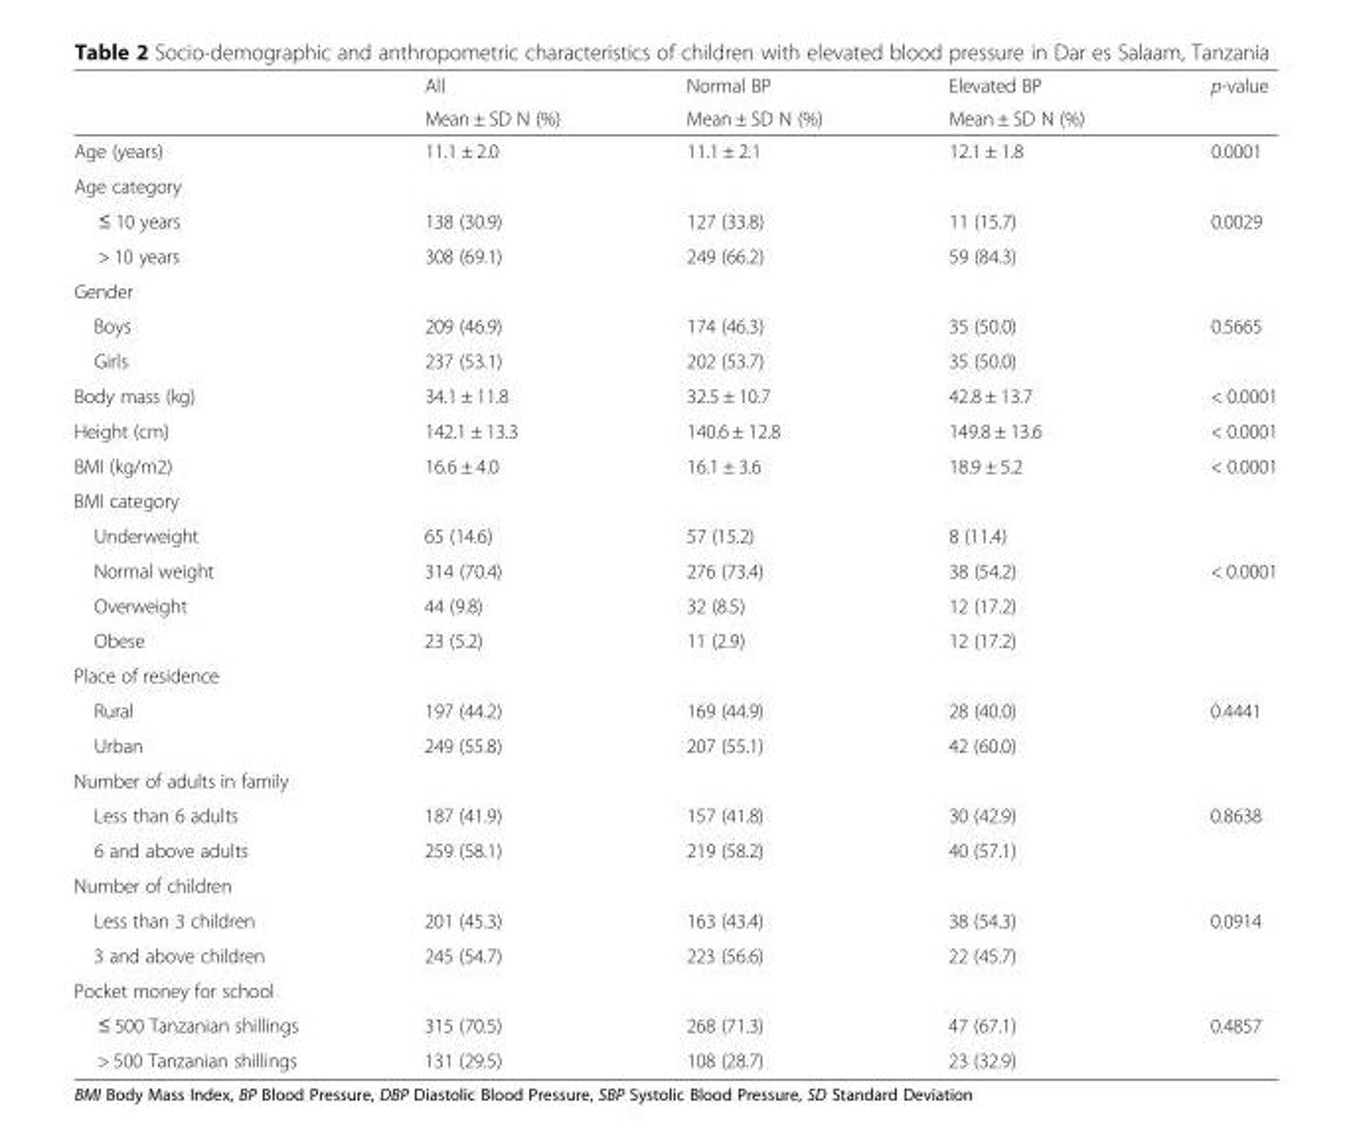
<table><thead><tr><td rowspan="2"></td><td rowspan="2">All Mean ± SD N (%)</td><td rowspan="2">Normal BP Mean ± SD N (%)</td><td rowspan="2">Elevated BP Mean ± SD N (%)</td><td rowspan="2">p-value</td></tr><tr></tr></thead><tbody><tr><td>Age (years)</td><td>11.1 ± 2.0</td><td>11.1 ± 2.1</td><td>12.1 ± 1.8</td><td>0.0001</td></tr><tr><td colspan="5">Age category</td></tr><tr><td>≤ 10 years</td><td>138 (30.9)</td><td>127 (33.8)</td><td>11 (15.7)</td><td>0.0029</td></tr><tr><td>&gt; 10 years</td><td>308 (69.1)</td><td>249 (66.2)</td><td>59 (84.3)</td><td></td></tr><tr><td colspan="5">Gender</td></tr><tr><td>Boys</td><td>209 (46.9)</td><td>174 (46.3)</td><td>35 (50.0)</td><td>0.5665</td></tr><tr><td>Girls</td><td>237 (53.1)</td><td>202 (53.7)</td><td>35 (50.0)</td><td></td></tr><tr><td>Body mass (kg)</td><td>34.1 ± 11.8</td><td>32.5 ± 10.7</td><td>42.8 ± 13.7</td><td>&lt; 0.0001</td></tr><tr><td>Height (cm)</td><td>142.1 ± 13.3</td><td>140.6 ± 12.8</td><td>149.8 ± 13.6</td><td>&lt; 0.0001</td></tr><tr><td>BMI (kg/m2)</td><td>16.6 ± 4.0</td><td>16.1 ± 3.6</td><td>18.9 ± 5.2</td><td>&lt; 0.0001</td></tr><tr><td colspan="5">BMI category</td></tr><tr><td>Underweight</td><td>65 (14.6)</td><td>57 (15.2)</td><td>8 (11.4)</td><td></td></tr><tr><td>Normal weight</td><td>314 (70.4)</td><td>276 (73.4)</td><td>38 (54.2)</td><td>&lt; 0.0001</td></tr><tr><td>Overweight</td><td>44 (9.8)</td><td>32 (8.5)</td><td>12 (17.2)</td><td></td></tr><tr><td>Obese</td><td>23 (5.2)</td><td>11 (2.9)</td><td>12 (17.2)</td><td></td></tr><tr><td colspan="5">Place of residence</td></tr><tr><td>Rural</td><td>197 (44.2)</td><td>169 (44.9)</td><td>28 (40.0)</td><td>0.4441</td></tr><tr><td>Urban</td><td>249 (55.8)</td><td>207 (55.1)</td><td>42 (60.0)</td><td></td></tr><tr><td colspan="5">Number of adults in family</td></tr><tr><td>Less than 6 adults</td><td>187 (41.9)</td><td>157 (41.8)</td><td>30 (42.9)</td><td>0.8638</td></tr><tr><td>6 and above adults</td><td>259 (58.1)</td><td>219 (58.2)</td><td>40 (57.1)</td><td></td></tr><tr><td colspan="5">Number of children</td></tr><tr><td>Less than 3 children</td><td>201 (45.3)</td><td>163 (43.4)</td><td>38 (54.3)</td><td>0.0914</td></tr><tr><td>3 and above children</td><td>245 (54.7)</td><td>223 (56.6)</td><td>22 (45.7)</td><td></td></tr><tr><td colspan="5">Pocket money for school</td></tr><tr><td>≤ 500 Tanzanian shillings</td><td>315 (70.5)</td><td>268 (71.3)</td><td>47 (67.1)</td><td>0.4857</td></tr><tr><td>&gt; 500 Tanzanian shillings</td><td>131 (29.5)</td><td>108 (28.7)</td><td>23 (32.9)</td><td></td></tr></tbody></table>